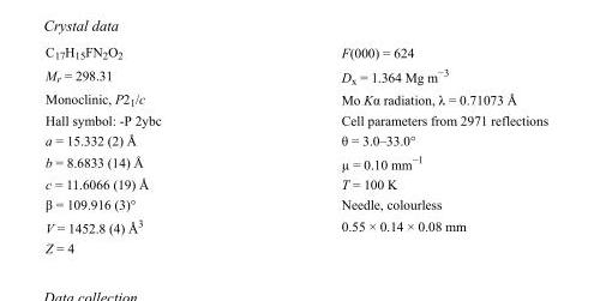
<table><tbody><tr><td>C<sub>17</sub>H<sub>15</sub>FN<sub>2</sub>O<sub>2</sub></td><td>F(000) = 624</td></tr><tr><td>M<sub>r</sub> = 298.31</td><td>D<sub>x</sub> = 1.364 Mg m<sup>−3</sup></td></tr><tr><td>Monoclinic, P2<sub>1</sub>/c</td><td>Mo Kα radiation, λ = 0.71073 Å</td></tr><tr><td>Hall symbol: -P 2ybc</td><td>Cell parameters from 2971 reflections</td></tr><tr><td>a = 15.332 (2) Å</td><td>θ = 3.0–33.0°</td></tr><tr><td>b = 8.6833 (14) Å</td><td>µ = 0.10 mm<sup>−1</sup></td></tr><tr><td>c = 11.6066 (19) Å</td><td>T = 100 K</td></tr><tr><td>β = 109.916 (3)°</td><td>Needle, colourless</td></tr><tr><td>V = 1452.8 (4) Å<sup>3</sup></td><td>0.55 × 0.14 × 0.08 mm</td></tr><tr><td>Z = 4</td><td></td></tr></tbody></table>